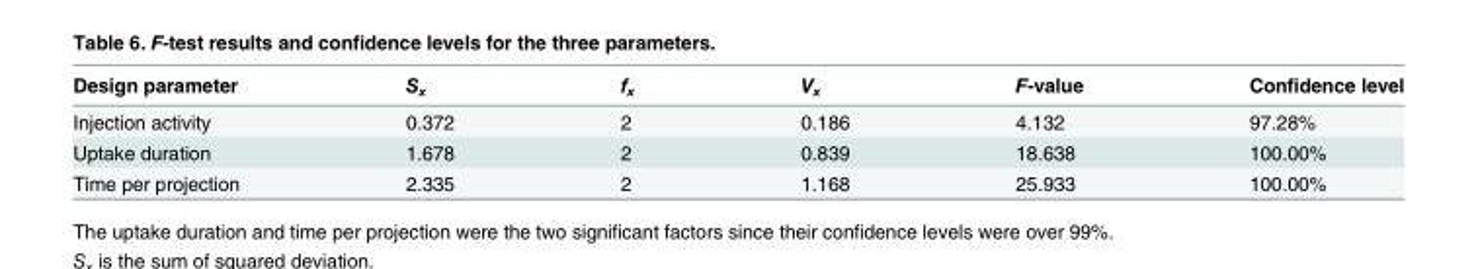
<table><thead><tr><td>Design parameter</td><td>S<sub>x</sub></td><td>f<sub>x</sub></td><td>V<sub>x</sub></td><td>F-value</td><td>Confidence level</td></tr></thead><tbody><tr><td>Injection activity</td><td>0.372</td><td>2</td><td>0.186</td><td>4.132</td><td>97.28%</td></tr><tr><td>Uptake duration</td><td>1.678</td><td>2</td><td>0.839</td><td>18.638</td><td>100.00%</td></tr><tr><td>Time per projection</td><td>2.335</td><td>2</td><td>1.168</td><td>25.933</td><td>100.00%</td></tr></tbody></table>